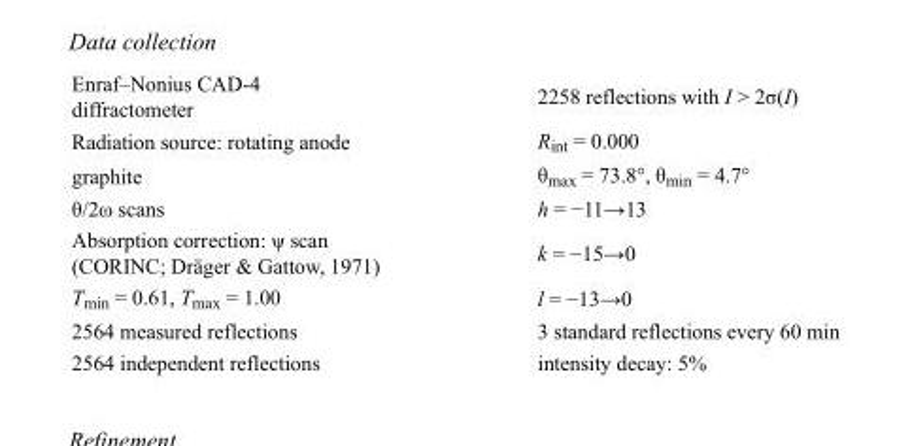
<table><tbody><tr><td>Enraf–Nonius CAD-4 diffractometer</td><td>2258 reflections with I &gt; 2σ(I)</td></tr><tr><td>Radiation source: rotating anode</td><td>R<sub>int</sub> = 0.000</td></tr><tr><td>graphite</td><td>θ<sub>max</sub> = 73.8°, θ<sub>min</sub> = 4.7°</td></tr><tr><td>θ/2ω scans</td><td>h = −11→13</td></tr><tr><td>Absorption correction: ψ scan (CORINC; Dräger &amp; Gattow, 1971)</td><td>k = −15→0</td></tr><tr><td>T<sub>min</sub> = 0.61, T<sub>max</sub> = 1.00</td><td>l = −13→0</td></tr><tr><td>2564 measured reflections</td><td>3 standard reflections every 60 min</td></tr><tr><td>2564 independent reflections</td><td>intensity decay: 5%</td></tr></tbody></table>